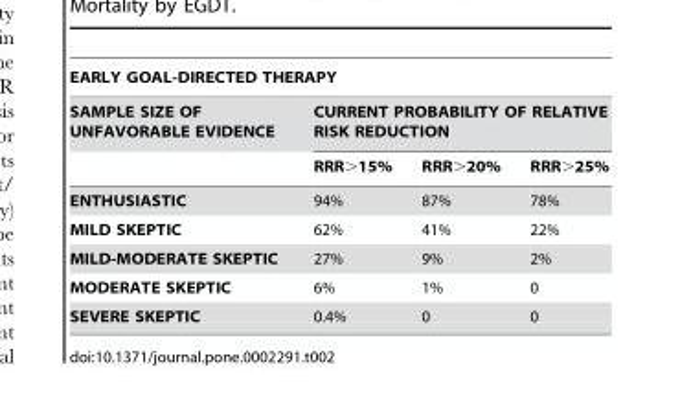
<table><thead><tr><td colspan="4">EARLY GOAL-DIRECTED THERAPY</td></tr><tr><td rowspan="2">SAMPLE SIZE OF UNFAVORABLE EVIDENCE</td><td colspan="3">CURRENT PROBABILITY OF RELATIVE RISK REDUCTION</td></tr><tr><td>RRR&gt;15%</td><td>RRR&gt;20%</td><td>RRR&gt;25%</td></tr></thead><tbody><tr><td>ENTHUSIASTIC</td><td>94%</td><td>87%</td><td>78%</td></tr><tr><td>MILD SKEPTIC</td><td>62%</td><td>41%</td><td>22%</td></tr><tr><td>MILD-MODERATE SKEPTIC</td><td>27%</td><td>9%</td><td>2%</td></tr><tr><td>MODERATE SKEPTIC</td><td>6%</td><td>1%</td><td>0</td></tr><tr><td>SEVERE SKEPTIC</td><td>0.4%</td><td>0</td><td>0</td></tr></tbody></table>